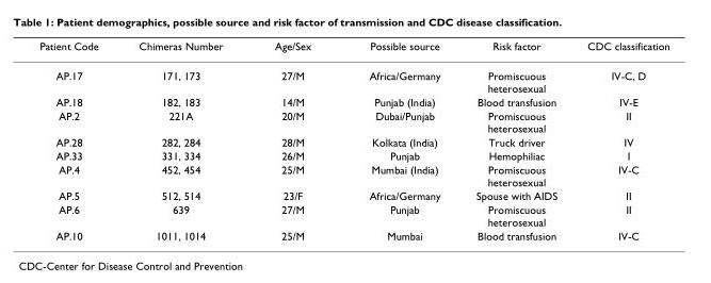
<table><thead><tr><td>Patient Code</td><td>Chimeras Number</td><td>Age/Sex</td><td>Possible source</td><td>Risk factor</td><td>CDC classification</td></tr></thead><tbody><tr><td>AP.17</td><td>171, 173</td><td>27/M</td><td>Africa/Germany</td><td>Promiscuous heterosexual</td><td>IV-C, D</td></tr><tr><td>AP.18</td><td>182, 183</td><td>14/M</td><td>Punjab (India)</td><td>Blood transfusion</td><td>IV-E</td></tr><tr><td>AP.2</td><td>221A</td><td>20/M</td><td>Dubai/Punjab</td><td>Promiscuous heterosexual</td><td>II</td></tr><tr><td>AP.28</td><td>282, 284</td><td>28/M</td><td>Kolkata (India)</td><td>Truck driver</td><td>IV</td></tr><tr><td>AP.33</td><td>331, 334</td><td>26/M</td><td>Punjab</td><td>Hemophiliac</td><td>I</td></tr><tr><td>AP.4</td><td>452, 454</td><td>25/M</td><td>Mumbai (India)</td><td>Promiscuous heterosexual</td><td>IV-C</td></tr><tr><td>AP.5</td><td>512, 514</td><td>23/F</td><td>Africa/Germany</td><td>Spouse with AIDS</td><td>II</td></tr><tr><td>AP.6</td><td>639</td><td>27/M</td><td>Punjab</td><td>Promiscuous heterosexual</td><td>II</td></tr><tr><td>AP.10</td><td>1011, 1014</td><td>25/M</td><td>Mumbai</td><td>Blood transfusion</td><td>IV-C</td></tr></tbody></table>